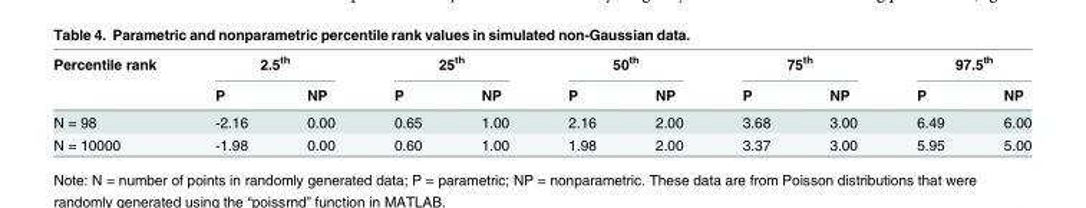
<table><thead><tr><td rowspan="2">Percentile rank</td><td colspan="2">2.5<sup>th</sup></td><td colspan="2">25<sup>th</sup></td><td colspan="2">50<sup>th</sup></td><td colspan="2">75<sup>th</sup></td><td colspan="2">97.5<sup>th</sup></td></tr><tr><td>P</td><td>NP</td><td>P</td><td>NP</td><td>P</td><td>NP</td><td>P</td><td>NP</td><td>P</td><td>NP</td></tr></thead><tbody><tr><td>N = 98</td><td>-2.16</td><td>0.00</td><td>0.65</td><td>1.00</td><td>2.16</td><td>2.00</td><td>3.68</td><td>3.00</td><td>6.49</td><td>6.00</td></tr><tr><td>N = 10000</td><td>-1.98</td><td>0.00</td><td>0.60</td><td>1.00</td><td>1.98</td><td>2.00</td><td>3.37</td><td>3.00</td><td>5.95</td><td>5.00</td></tr></tbody></table>